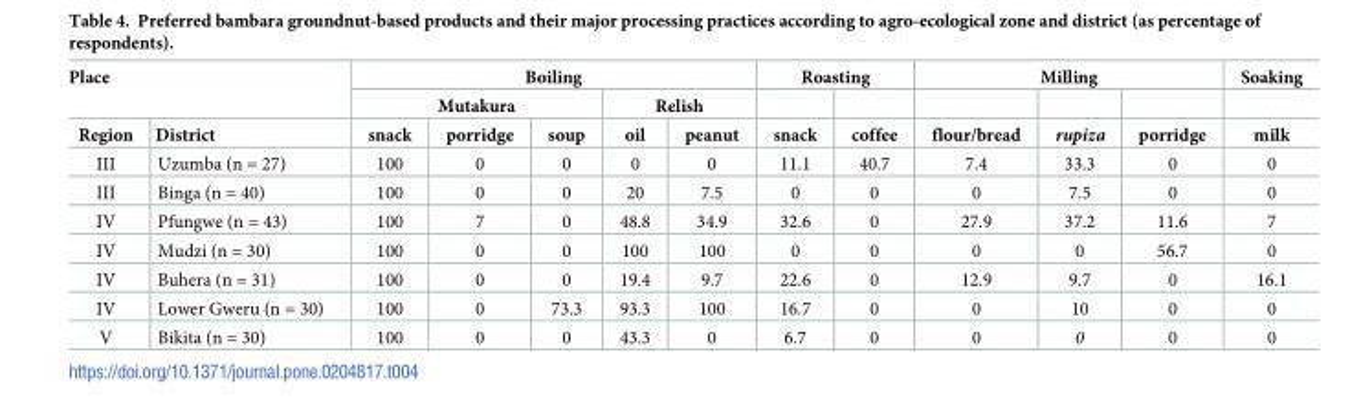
<table><thead><tr><td rowspan="2" colspan="2">Place</td><td colspan="5">Boiling</td><td colspan="2">Roasting</td><td colspan="3">Milling</td><td rowspan="3">Soaking milk</td></tr><tr><td colspan="3">Mutakura</td><td colspan="2">Relish</td><td rowspan="2">snack</td><td rowspan="2">coffee</td><td rowspan="2">flour/bread</td><td rowspan="2">rupiza</td><td rowspan="2">porridge</td></tr><tr><td>Region</td><td>District</td><td>snack</td><td>porridge</td><td>soup</td><td>oil</td><td>peanut</td></tr></thead><tbody><tr><td>III</td><td>Uzumba (n = 27)</td><td>100</td><td>0</td><td>0</td><td>0</td><td>0</td><td>11.1</td><td>40.7</td><td>7.4</td><td>33.3</td><td>0</td><td>0</td></tr><tr><td>III</td><td>Binga (n = 40)</td><td>100</td><td>0</td><td>0</td><td>20</td><td>7.5</td><td>0</td><td>0</td><td>0</td><td>7.5</td><td>0</td><td>0</td></tr><tr><td>IV</td><td>Pfungwe (n = 43)</td><td>100</td><td>7</td><td>0</td><td>48.8</td><td>34.9</td><td>32.6</td><td>0</td><td>27.9</td><td>37.2</td><td>11.6</td><td>7</td></tr><tr><td>IV</td><td>Mudzi (n = 30)</td><td>100</td><td>0</td><td>0</td><td>100</td><td>100</td><td>0</td><td>0</td><td>0</td><td>0</td><td>56.7</td><td>0</td></tr><tr><td>IV</td><td>Buhera (n = 31)</td><td>100</td><td>0</td><td>0</td><td>19.4</td><td>9.7</td><td>22.6</td><td>0</td><td>12.9</td><td>9.7</td><td>0</td><td>16.1</td></tr><tr><td>IV</td><td>Lower Gweru (n = 30)</td><td>100</td><td>0</td><td>73.3</td><td>93.3</td><td>100</td><td>16.7</td><td>0</td><td>0</td><td>10</td><td>0</td><td>0</td></tr><tr><td>V</td><td>Bikita (n = 30)</td><td>100</td><td>0</td><td>0</td><td>43.3</td><td>0</td><td>6.7</td><td>0</td><td>0</td><td>0</td><td>0</td><td>0</td></tr></tbody></table>